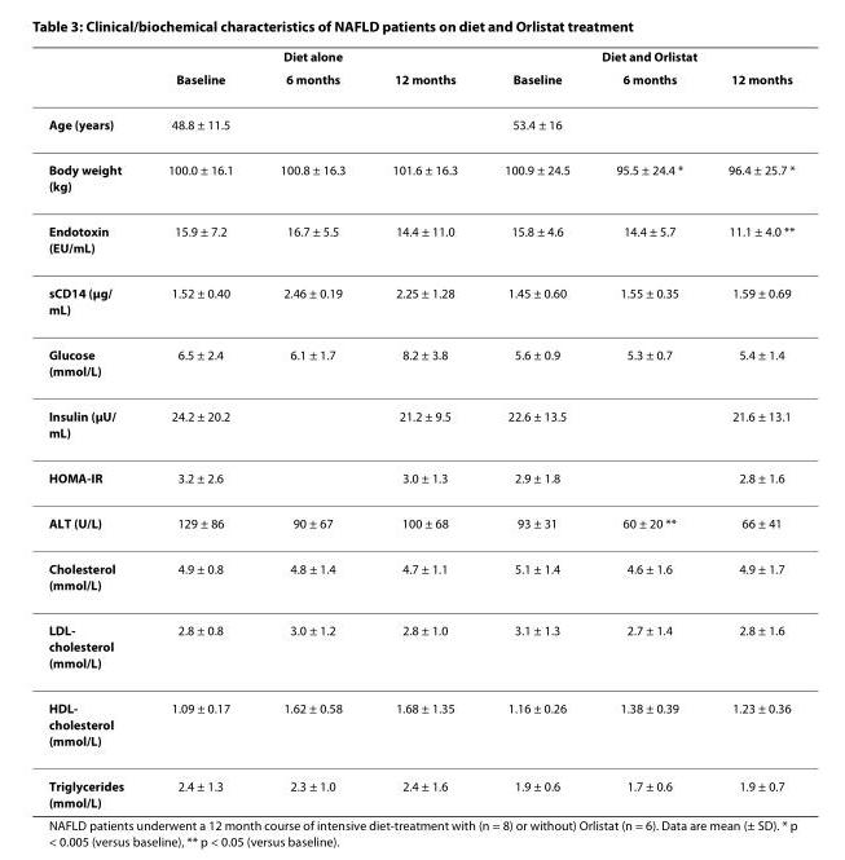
<table><thead><tr><td rowspan="2"></td><td colspan="3">Diet alone</td><td colspan="3">Diet and Orlistat</td></tr><tr><td>Baseline</td><td>6 months</td><td>12 months</td><td>Baseline</td><td>6 months</td><td>12 months</td></tr></thead><tbody><tr><td>Age (years)</td><td>48.8 ± 11.5</td><td></td><td></td><td>53.4 ± 16</td><td></td><td></td></tr><tr><td>Body weight (kg)</td><td>100.0 ± 16.1</td><td>100.8 ± 16.3</td><td>101.6 ± 16.3</td><td>100.9 ± 24.5</td><td>95.5 ± 24.4 *</td><td>96.4 ± 25.7 *</td></tr><tr><td>Endotoxin (EU/mL)</td><td>15.9 ± 7.2</td><td>16.7 ± 5.5</td><td>14.4 ± 11.0</td><td>15.8 ± 4.6</td><td>14.4 ± 5.7</td><td>11.1 ± 4.0 **</td></tr><tr><td>sCD14 (μg/ mL)</td><td>1.52 ± 0.40</td><td>2.46 ± 0.19</td><td>2.25 ± 1.28</td><td>1.45 ± 0.60</td><td>1.55 ± 0.35</td><td>1.59 ± 0.69</td></tr><tr><td>Glucose (mmol/L)</td><td>6.5 ± 2.4</td><td>6.1 ± 1.7</td><td>8.2 ± 3.8</td><td>5.6 ± 0.9</td><td>5.3 ± 0.7</td><td>5.4 ± 1.4</td></tr><tr><td>Insulin (μU/ mL)</td><td>24.2 ± 20.2</td><td></td><td>21.2 ± 9.5</td><td>22.6 ± 13.5</td><td></td><td>21.6 ± 13.1</td></tr><tr><td>HOMA-IR</td><td>3.2 ± 2.6</td><td></td><td>3.0 ± 1.3</td><td>2.9 ± 1.8</td><td></td><td>2.8 ± 1.6</td></tr><tr><td>ALT (U/L)</td><td>129 ± 86</td><td>90 ± 67</td><td>100 ± 68</td><td>93 ± 31</td><td>60 ± 20 **</td><td>66 ± 41</td></tr><tr><td>Cholesterol (mmol/L)</td><td>4.9 ± 0.8</td><td>4.8 ± 1.4</td><td>4.7 ± 1.1</td><td>5.1 ± 1.4</td><td>4.6 ± 1.6</td><td>4.9 ± 1.7</td></tr><tr><td>LDL- cholesterol (mmol/L)</td><td>2.8 ± 0.8</td><td>3.0 ± 1.2</td><td>2.8 ± 1.0</td><td>3.1 ± 1.3</td><td>2.7 ± 1.4</td><td>2.8 ± 1.6</td></tr><tr><td>HDL- cholesterol (mmol/L)</td><td>1.09 ± 0.17</td><td>1.62 ± 0.58</td><td>1.68 ± 1.35</td><td>1.16 ± 0.26</td><td>1.38 ± 0.39</td><td>1.23 ± 0.36</td></tr><tr><td>Triglycerides (mmol/L)</td><td>2.4 ± 1.3</td><td>2.3 ± 1.0</td><td>2.4 ± 1.6</td><td>1.9 ± 0.6</td><td>1.7 ± 0.6</td><td>1.9 ± 0.7</td></tr></tbody></table>